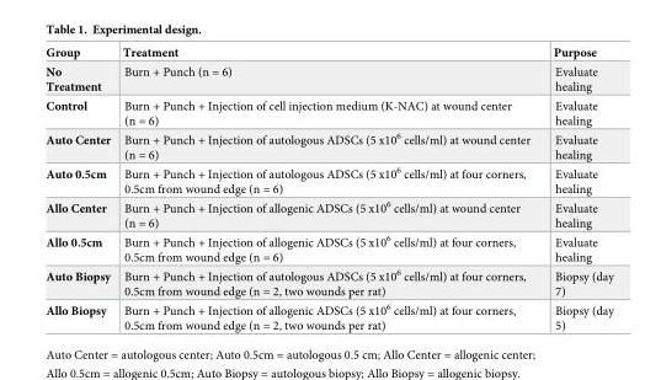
<table><thead><tr><td>Group</td><td>Treatment</td><td>Purpose</td></tr></thead><tbody><tr><td>No Treatment</td><td>Burn + Punch (n = 6)</td><td>Evaluate healing</td></tr><tr><td>Control</td><td>Burn + Punch + Injection of cell injection medium (K-NAC) at wound center (n = 6)</td><td>Evaluate healing</td></tr><tr><td>Auto Center</td><td>Burn + Punch + Injection of autologous ADSCs (5 x10<sup>6</sup> cells/ml) at wound center (n = 6)</td><td>Evaluate healing</td></tr><tr><td>Auto 0.5cm</td><td>Burn + Punch + Injection of autologous ADSCs (5 x10<sup>6</sup> cells/ml) at four corners, 0.5cm from wound edge (n = 6)</td><td>Evaluate healing</td></tr><tr><td>Allo Center</td><td>Burn + Punch + Injection of allogenic ADSCs (5 x10<sup>6</sup> cells/ml) at wound center (n = 6)</td><td>Evaluate healing</td></tr><tr><td>Allo 0.5cm</td><td>Burn + Punch + Injection of allogenic ADSCs (5 x10<sup>6</sup> cells/ml) at four corners, 0.5cm from wound edge (n = 6)</td><td>Evaluate healing</td></tr><tr><td>Auto Biopsy</td><td>Burn + Punch + Injection of autologous ADSCs (5 x10<sup>6</sup> cells/ml) at four corners, 0.5cm from wound edge (n = 2, two wounds per rat)</td><td>Biopsy (day 7)</td></tr><tr><td>Allo Biopsy</td><td>Burn + Punch + Injection of allogenic ADSCs (5 x10<sup>6</sup> cells/ml) at four corners, 0.5cm from wound edge (n = 2, two wounds per rat)</td><td>Biopsy (day 5)</td></tr></tbody></table>